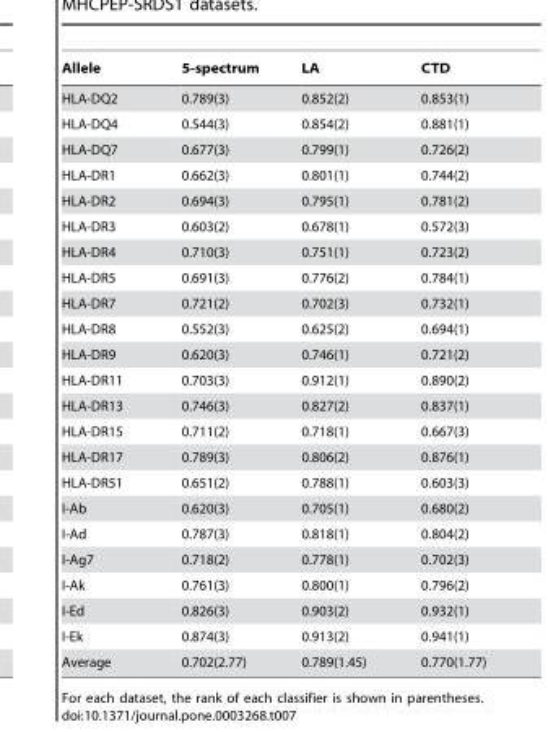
<table><thead><tr><td>Allele</td><td>5-spectrum</td><td>LA</td><td>CTD</td></tr></thead><tbody><tr><td>HLA-DQ2</td><td>0.789(3)</td><td>0.852(2)</td><td>0.853(1)</td></tr><tr><td>HLA-DQ4</td><td>0.544(3)</td><td>0.854(2)</td><td>0.881(1)</td></tr><tr><td>HLA-DQ7</td><td>0.677(3)</td><td>0.799(1)</td><td>0.726(2)</td></tr><tr><td>HLA-DR1</td><td>0.662(3)</td><td>0.801(1)</td><td>0.744(2)</td></tr><tr><td>HLA-DR2</td><td>0.694(3)</td><td>0.795(1)</td><td>0.781(2)</td></tr><tr><td>HLA-DR3</td><td>0.603(2)</td><td>0.678(1)</td><td>0.572(3)</td></tr><tr><td>HLA-DR4</td><td>0.710(3)</td><td>0.751(1)</td><td>0.723(2)</td></tr><tr><td>HLA-DR5</td><td>0.691(3)</td><td>0.776(2)</td><td>0.784(1)</td></tr><tr><td>HLA-DR7</td><td>0.721(2)</td><td>0.702(3)</td><td>0.732(1)</td></tr><tr><td>HLA-DR8</td><td>0.552(3)</td><td>0.625(2)</td><td>0.694(1)</td></tr><tr><td>HLA-DR9</td><td>0.620(3)</td><td>0.746(1)</td><td>0.721(2)</td></tr><tr><td>HLA-DR11</td><td>0.703(3)</td><td>0.912(1)</td><td>0.890(2)</td></tr><tr><td>HLA-DR13</td><td>0.746(3)</td><td>0.827(2)</td><td>0.837(1)</td></tr><tr><td>HLA-DR15</td><td>0.711(2)</td><td>0.718(1)</td><td>0.667(3)</td></tr><tr><td>HLA-DR17</td><td>0.789(3)</td><td>0.806(2)</td><td>0.876(1)</td></tr><tr><td>HLA-DR51</td><td>0.651(2)</td><td>0.788(1)</td><td>0.603(3)</td></tr><tr><td>I-Ab</td><td>0.620(3)</td><td>0.705(1)</td><td>0.680(2)</td></tr><tr><td>I-Ad</td><td>0.787(3)</td><td>0.818(1)</td><td>0.804(2)</td></tr><tr><td>I-Ag7</td><td>0.718(2)</td><td>0.778(1)</td><td>0.702(3)</td></tr><tr><td>I-Ak</td><td>0.761(3)</td><td>0.800(1)</td><td>0.796(2)</td></tr><tr><td>I-Ed</td><td>0.826(3)</td><td>0.903(2)</td><td>0.932(1)</td></tr><tr><td>I-Ek</td><td>0.874(3)</td><td>0.913(2)</td><td>0.941(1)</td></tr><tr><td>Average</td><td>0.702(2.77)</td><td>0.789(1.45)</td><td>0.770(1.77)</td></tr></tbody></table>